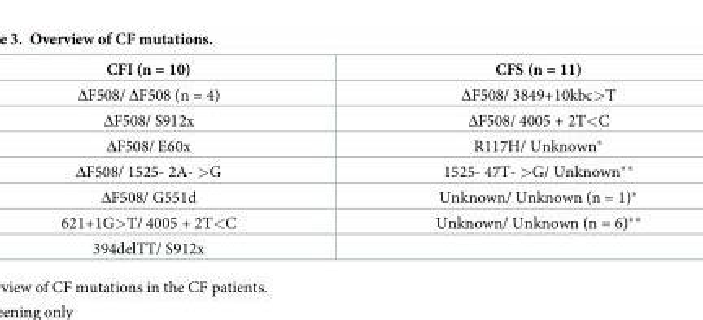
<table><thead><tr><td>CFI (n = 10)</td><td>CFS (n = 11)</td></tr></thead><tbody><tr><td>ΔF508/ ΔF508 (n = 4)</td><td>ΔF508/ 3849+10kbc&gt;T</td></tr><tr><td>ΔF508/ S912x</td><td>ΔF508/ 4005 + 2T&lt;C</td></tr><tr><td>ΔF508/ E60x</td><td>R117H/ Unknown*</td></tr><tr><td>ΔF508/ 1525- 2A- &gt;G</td><td>1525- 47T- &gt;G/ Unknown**</td></tr><tr><td>ΔF508/ G551d</td><td>Unknown/ Unknown (n = 1)*</td></tr><tr><td>621+1G&gt;T/ 4005 + 2T&lt;C</td><td>Unknown/ Unknown (n = 6)**</td></tr><tr><td>394delTT/ S912x</td><td></td></tr></tbody></table>